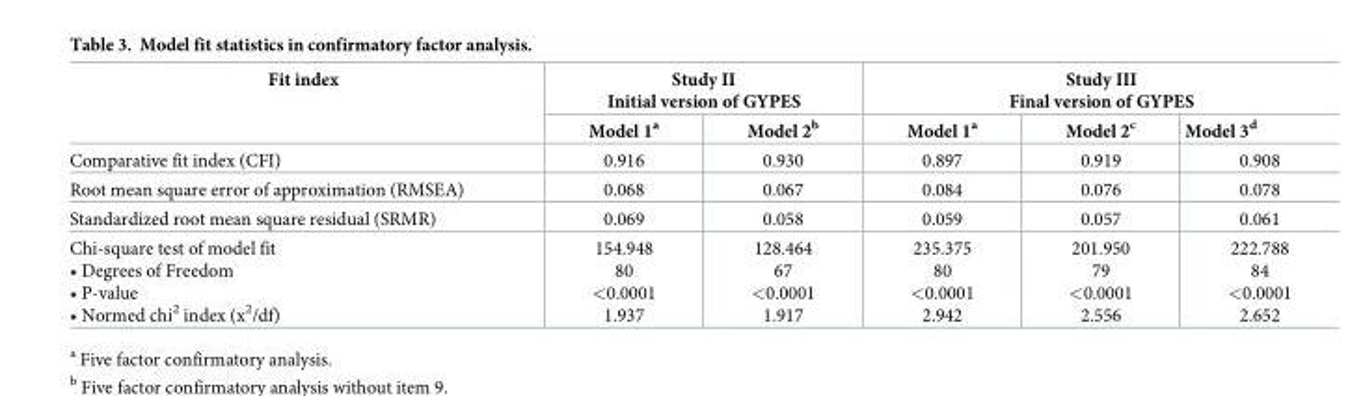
<table><thead><tr><td rowspan="2">Fit index</td><td colspan="2">Study II Initial version of GYPES</td><td colspan="3">Study III Final version of GYPES</td></tr><tr><td>Model 1<sup>a</sup></td><td>Model 2<sup>b</sup></td><td>Model 1<sup>a</sup></td><td>Model 2<sup>c</sup></td><td>Model 3<sup>d</sup></td></tr></thead><tbody><tr><td>Comparative fit index (CFI)</td><td>0.916</td><td>0.930</td><td>0.897</td><td>0.919</td><td>0.908</td></tr><tr><td>Root mean square error of approximation (RMSEA)</td><td>0.068</td><td>0.067</td><td>0.084</td><td>0.076</td><td>0.078</td></tr><tr><td>Standardized root mean square residual (SRMR)</td><td>0.069</td><td>0.058</td><td>0.059</td><td>0.057</td><td>0.061</td></tr><tr><td>Chi-square test of model fit • Degrees of Freedom • P-value • Normed chi<sup>2</sup> index (x<sup>2</sup>/df)</td><td>154.948 80 &lt;0.0001 1.937</td><td>128.464 67 &lt;0.0001 1.917</td><td>235.375 80 &lt;0.0001 2.942</td><td>201.950 79 &lt;0.0001 2.556</td><td>222.788 84 &lt;0.0001 2.652</td></tr></tbody></table>